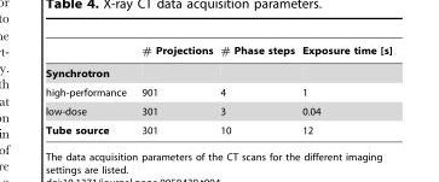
<table><thead><tr><td></td><td># Projections</td><td># Phase steps</td><td>Exposure time [s]</td></tr></thead><tbody><tr><td colspan="4">Synchrotron</td></tr><tr><td>high-performance</td><td>901</td><td>4</td><td>1</td></tr><tr><td>low-dose</td><td>301</td><td>3</td><td>0.04</td></tr><tr><td>Tube source</td><td>301</td><td>10</td><td>12</td></tr></tbody></table>